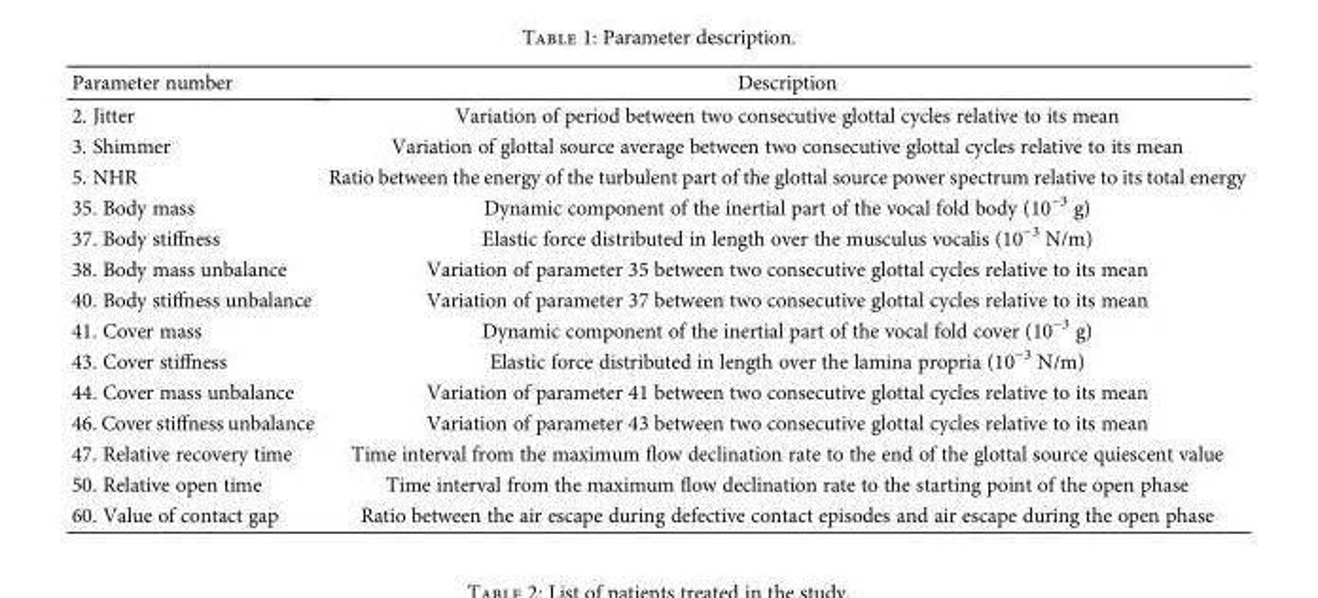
<table><thead><tr><td>Parameter number</td><td>Description</td></tr></thead><tbody><tr><td>2. Jitter</td><td>Variation of period between two consecutive glottal cycles relative to its mean</td></tr><tr><td>3. Shimmer</td><td>Variation of glottal source average between two consecutive glottal cycles relative to its mean</td></tr><tr><td>5. NHR</td><td>Ratio between the energy of the turbulent part of the glottal source power spectrum relative to its total energy</td></tr><tr><td>35. Body mass</td><td>Dynamic component of the inertial part of the vocal fold body (10<sup>−3</sup> g)</td></tr><tr><td>37. Body stiffness</td><td>Elastic force distributed in length over the musculus vocalis (10<sup>−3</sup> N/m)</td></tr><tr><td>38. Body mass unbalance</td><td>Variation of parameter 35 between two consecutive glottal cycles relative to its mean</td></tr><tr><td>40. Body stiffness unbalance</td><td>Variation of parameter 37 between two consecutive glottal cycles relative to its mean</td></tr><tr><td>41. Cover mass</td><td>Dynamic component of the inertial part of the vocal fold cover (10<sup>−3</sup> g)</td></tr><tr><td>43. Cover stiffness</td><td>Elastic force distributed in length over the lamina propria (10<sup>−3</sup> N/m)</td></tr><tr><td>44. Cover mass unbalance</td><td>Variation of parameter 41 between two consecutive glottal cycles relative to its mean</td></tr><tr><td>46. Cover stiffness unbalance</td><td>Variation of parameter 43 between two consecutive glottal cycles relative to its mean</td></tr><tr><td>47. Relative recovery time</td><td>Time interval from the maximum flow declination rate to the end of the glottal source quiescent value</td></tr><tr><td>50. Relative open time</td><td>Time interval from the maximum flow declination rate to the starting point of the open phase</td></tr><tr><td>60. Value of contact gap</td><td>Ratio between the air escape during defective contact episodes and air escape during the open phase</td></tr></tbody></table>